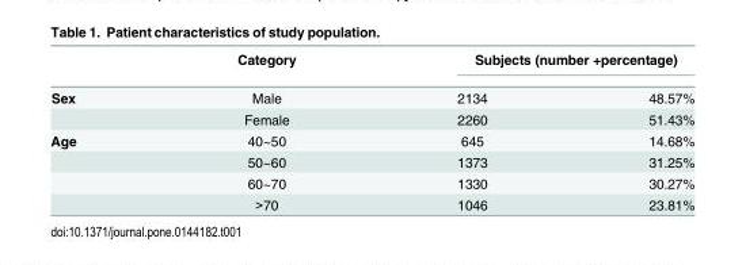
<table><thead><tr><td rowspan="2">Sex</td><td rowspan="2">Category Male</td><td colspan="2">Subjects (number +percentage)</td></tr><tr><td>2134</td><td>48.57%</td></tr></thead><tbody><tr><td></td><td>Female</td><td>2260</td><td>51.43%</td></tr><tr><td rowspan="4">Age</td><td>40~50</td><td>645</td><td>14.68%</td></tr><tr><td>50~60</td><td>1373</td><td>31.25%</td></tr><tr><td>60~70</td><td>1330</td><td>30.27%</td></tr><tr><td>&gt;70</td><td>1046</td><td>23.81%</td></tr></tbody></table>